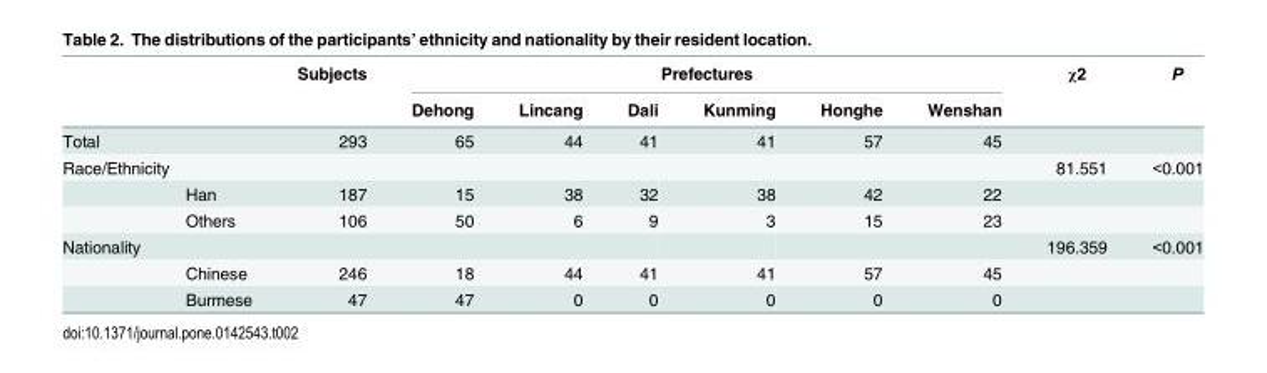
<table><thead><tr><td rowspan="2"></td><td rowspan="2"></td><td rowspan="2">Subjects</td><td colspan="6">Prefectures</td><td rowspan="2">χ2</td><td rowspan="2">P</td></tr><tr><td>Dehong</td><td>Lincang</td><td>Dali</td><td>Kunming</td><td>Honghe</td><td>Wenshan</td></tr></thead><tbody><tr><td>Total</td><td></td><td>293</td><td>65</td><td>44</td><td>41</td><td>41</td><td>57</td><td>45</td><td></td><td></td></tr><tr><td colspan="2">Race/Ethnicity</td><td></td><td></td><td></td><td></td><td></td><td></td><td></td><td>81.551</td><td>&lt;0.001</td></tr><tr><td></td><td>Han</td><td>187</td><td>15</td><td>38</td><td>32</td><td>38</td><td>42</td><td>22</td><td></td><td></td></tr><tr><td></td><td>Others</td><td>106</td><td>50</td><td>6</td><td>9</td><td>3</td><td>15</td><td>23</td><td></td><td></td></tr><tr><td rowspan="3">Nationality</td><td></td><td></td><td></td><td></td><td></td><td></td><td></td><td></td><td>196.359</td><td>&lt;0.001</td></tr><tr><td>Chinese</td><td>246</td><td>18</td><td>44</td><td>41</td><td>41</td><td>57</td><td>45</td><td></td><td></td></tr><tr><td>Burmese</td><td>47</td><td>47</td><td>0</td><td>0</td><td>0</td><td>0</td><td>0</td><td></td><td></td></tr></tbody></table>